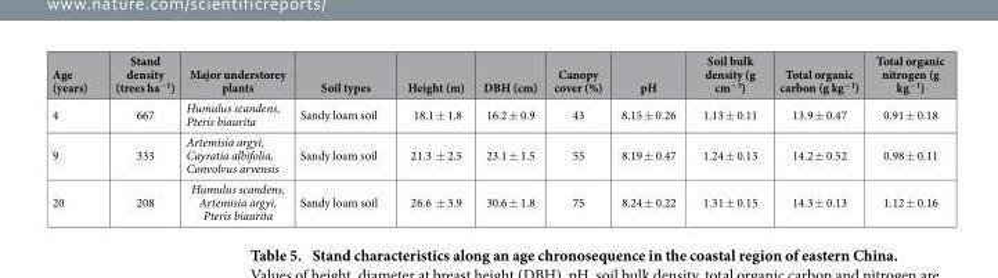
<table><thead><tr><td>Age (years)</td><td>Stand density (trees ha<sup>−1</sup>)</td><td>Major understorey plants</td><td>Soil types</td><td>Height (m)</td><td>DBH (cm)</td><td>Canopy cover (%)</td><td>pH</td><td>Soil bulk density (g cm<sup>−3</sup>)</td><td>Total organic carbon (g kg<sup>−1</sup>)</td><td>Total organic nitrogen (g kg<sup>−1</sup>)</td></tr></thead><tbody><tr><td>4</td><td>667</td><td>Humulus scandens, Pteris biaurita</td><td>Sandy loam soil</td><td>18.1 ± 1.8</td><td>16.2 ± 0.9</td><td>43</td><td>8.15 ± 0.26</td><td>1.13 ± 0.11</td><td>13.9 ± 0.47</td><td>0.91 ± 0.18</td></tr><tr><td>9</td><td>333</td><td>Artemisia argyi, Cayratia albifolia, Convolvus arvensis</td><td>Sandy loam soil</td><td>21.3 ± 2.5</td><td>23.1 ± 1.5</td><td>55</td><td>8.19 ± 0.47</td><td>1.24 ± 0.13</td><td>14.2 ± 0.52</td><td>0.98 ± 0.11</td></tr><tr><td>20</td><td>208</td><td>Humulus scandens, Artemisia argyi, Pteris biaurita</td><td>Sandy loam soil</td><td>26.6 ± 3.9</td><td>30.6 ± 1.8</td><td>75</td><td>8.24 ± 0.22</td><td>1.31 ± 0.15</td><td>14.3 ± 0.13</td><td>1.12 ± 0.16</td></tr></tbody></table>